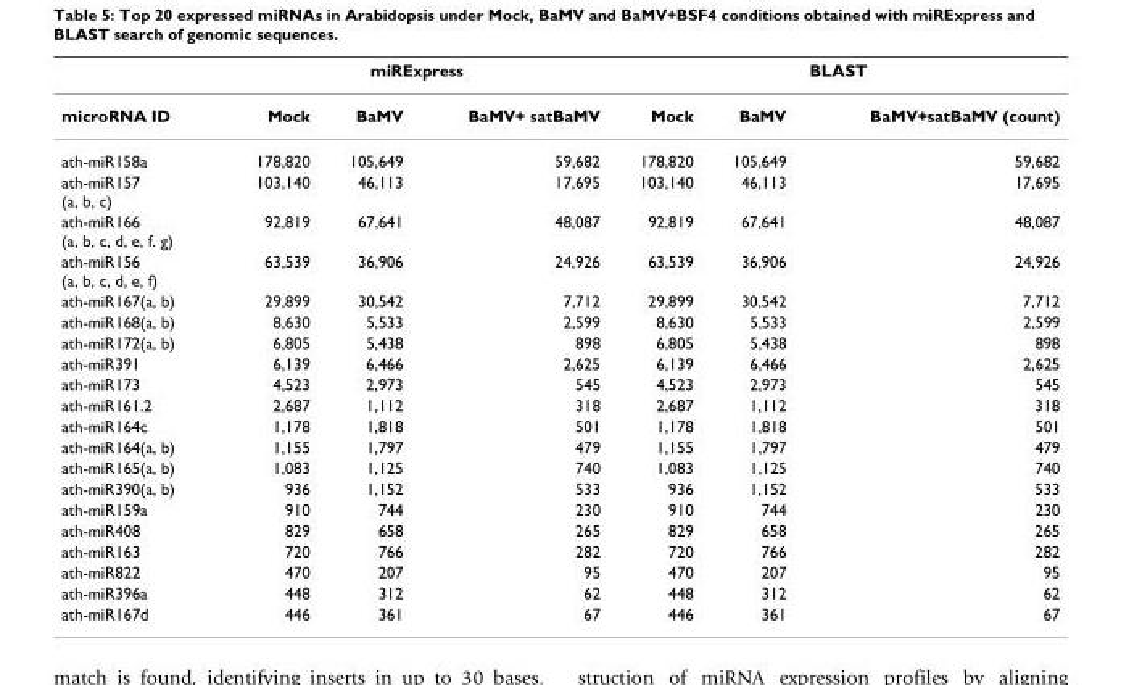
<table><thead><tr><td rowspan="2">microRNA ID</td><td colspan="3">miRExpress</td><td colspan="3">BLAST</td></tr><tr><td>Mock</td><td>BaMV</td><td>BaMV+ satBaMV</td><td>Mock</td><td>BaMV</td><td>BaMV+satBaMV (count)</td></tr></thead><tbody><tr><td>ath-miR158a</td><td>178,820</td><td>105,649</td><td>59,682</td><td>178,820</td><td>105,649</td><td>59,682</td></tr><tr><td>ath-miR157 (a, b, c)</td><td>103,140</td><td>46,113</td><td>17,695</td><td>103,140</td><td>46,113</td><td>17,695</td></tr><tr><td>ath-miR166 (a, b, c, d, e, f. g)</td><td>92,819</td><td>67,641</td><td>48,087</td><td>92,819</td><td>67,641</td><td>48,087</td></tr><tr><td>ath-miR156 (a, b, c, d, e, f)</td><td>63,539</td><td>36,906</td><td>24,926</td><td>63,539</td><td>36,906</td><td>24,926</td></tr><tr><td>ath-miR167(a, b)</td><td>29,899</td><td>30,542</td><td>7,712</td><td>29,899</td><td>30,542</td><td>7,712</td></tr><tr><td>ath-miR168(a, b)</td><td>8,630</td><td>5,533</td><td>2,599</td><td>8,630</td><td>5,533</td><td>2,599</td></tr><tr><td>ath-miR172(a, b)</td><td>6,805</td><td>5,438</td><td>898</td><td>6,805</td><td>5,438</td><td>898</td></tr><tr><td>ath-miR391</td><td>6,139</td><td>6,466</td><td>2,625</td><td>6,139</td><td>6,466</td><td>2,625</td></tr><tr><td>ath-miR173</td><td>4,523</td><td>2,973</td><td>545</td><td>4,523</td><td>2,973</td><td>545</td></tr><tr><td>ath-miR161.2</td><td>2,687</td><td>1,112</td><td>318</td><td>2,687</td><td>1,112</td><td>318</td></tr><tr><td>ath-miR164c</td><td>1,178</td><td>1,818</td><td>501</td><td>1,178</td><td>1,818</td><td>501</td></tr><tr><td>ath-miR164(a, b)</td><td>1,155</td><td>1,797</td><td>479</td><td>1,155</td><td>1,797</td><td>479</td></tr><tr><td>ath-miR165(a, b)</td><td>1,083</td><td>1,125</td><td>740</td><td>1,083</td><td>1,125</td><td>740</td></tr><tr><td>ath-miR390(a, b)</td><td>936</td><td>1,152</td><td>533</td><td>936</td><td>1,152</td><td>533</td></tr><tr><td>ath-miR159a</td><td>910</td><td>744</td><td>230</td><td>910</td><td>744</td><td>230</td></tr><tr><td>ath-miR408</td><td>829</td><td>658</td><td>265</td><td>829</td><td>658</td><td>265</td></tr><tr><td>ath-miR163</td><td>720</td><td>766</td><td>282</td><td>720</td><td>766</td><td>282</td></tr><tr><td>ath-miR822</td><td>470</td><td>207</td><td>95</td><td>470</td><td>207</td><td>95</td></tr><tr><td>ath-miR396a</td><td>448</td><td>312</td><td>62</td><td>448</td><td>312</td><td>62</td></tr><tr><td>ath-miR167d</td><td>446</td><td>361</td><td>67</td><td>446</td><td>361</td><td>67</td></tr></tbody></table>